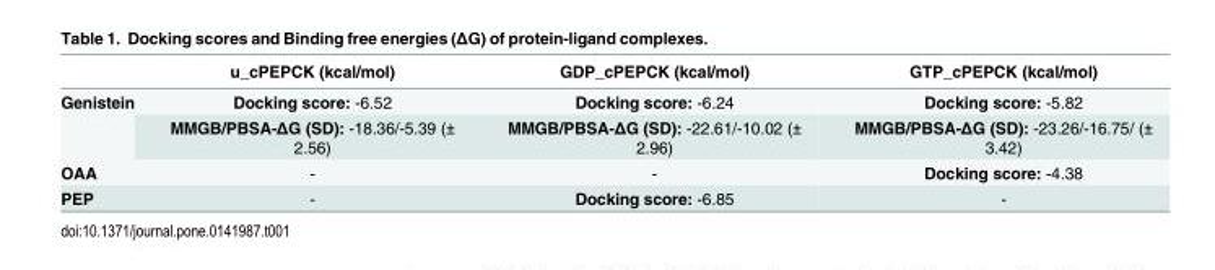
<table><thead><tr><td></td><td>u_cPEPCK (kcal/mol)</td><td>GDP_cPEPCK (kcal/mol)</td><td>GTP_cPEPCK (kcal/mol)</td></tr></thead><tbody><tr><td rowspan="2">Genistein</td><td>Docking score: -6.52</td><td>Docking score: -6.24</td><td>Docking score: -5.82</td></tr><tr><td>MMGB/PBSA-ΔG (SD): -18.36/-5.39 (± 2.56)</td><td>MMGB/PBSA-ΔG (SD): -22.61/-10.02 (± 2.96)</td><td>MMGB/PBSA-ΔG (SD): -23.26/-16.75/ (± 3.42)</td></tr><tr><td>OAA</td><td>-</td><td>-</td><td>Docking score: -4.38</td></tr><tr><td>PEP</td><td>-</td><td>Docking score: -6.85</td><td>-</td></tr></tbody></table>